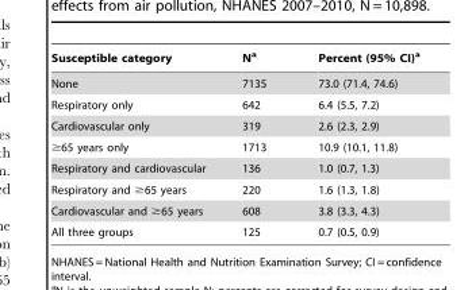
<table><thead><tr><td>Susceptible category</td><td>N<sup>a</sup></td><td>Percent (95% CI)<sup>a</sup></td></tr></thead><tbody><tr><td>None</td><td>7135</td><td>73.0 (71.4, 74.6)</td></tr><tr><td>Respiratory only</td><td>642</td><td>6.4 (5.5, 7.2)</td></tr><tr><td>Cardiovascular only</td><td>319</td><td>2.6 (2.3, 2.9)</td></tr><tr><td>≥65 years only</td><td>1713</td><td>10.9 (10.1, 11.8)</td></tr><tr><td>Respiratory and cardiovascular</td><td>136</td><td>1.0 (0.7, 1.3)</td></tr><tr><td>Respiratory and ≥65 years</td><td>220</td><td>1.6 (1.3, 1.8)</td></tr><tr><td>Cardiovascular and ≥65 years</td><td>608</td><td>3.8 (3.3, 4.3)</td></tr><tr><td>All three groups</td><td>125</td><td>0.7 (0.5, 0.9)</td></tr></tbody></table>